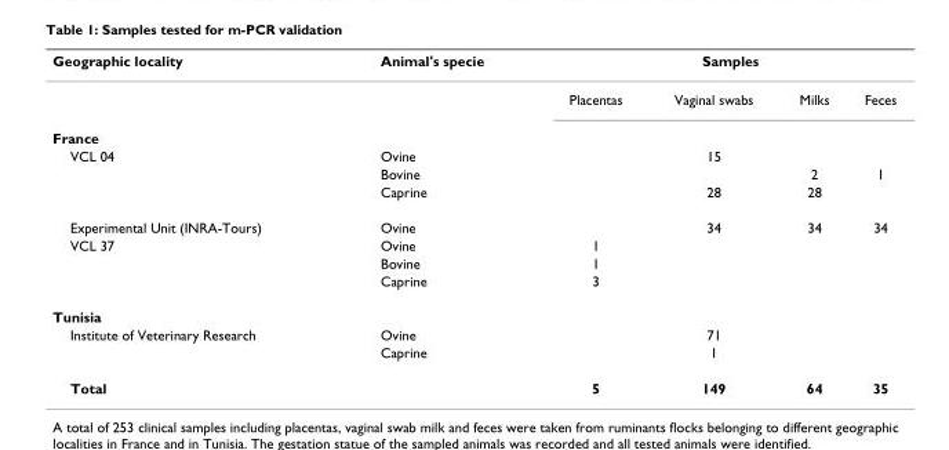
<table><thead><tr><td rowspan="2">Geographic locality</td><td rowspan="2">Animal&#x27;s specie</td><td colspan="4">Samples</td></tr><tr><td>Placentas</td><td>Vaginal swabs</td><td>Milks</td><td>Feces</td></tr></thead><tbody><tr><td colspan="6">France</td></tr><tr><td rowspan="3">VCL 04</td><td>Ovine</td><td></td><td>15</td><td></td><td></td></tr><tr><td>Bovine</td><td></td><td></td><td>2</td><td>1</td></tr><tr><td>Caprine</td><td></td><td>28</td><td>28</td><td></td></tr><tr><td>Experimental Unit (INRA-Tours)</td><td>Ovine</td><td></td><td>34</td><td>34</td><td>34</td></tr><tr><td rowspan="3">VCL 37</td><td>Ovine</td><td>1</td><td></td><td></td><td></td></tr><tr><td>Bovine</td><td>1</td><td></td><td></td><td></td></tr><tr><td>Caprine</td><td>3</td><td></td><td></td><td></td></tr><tr><td colspan="6">Tunisia</td></tr><tr><td rowspan="2">Institute of Veterinary Research</td><td>Ovine</td><td></td><td>71</td><td></td><td></td></tr><tr><td>Caprine</td><td></td><td>1</td><td></td><td></td></tr><tr><td>Total</td><td></td><td>5</td><td>149</td><td>64</td><td>35</td></tr></tbody></table>